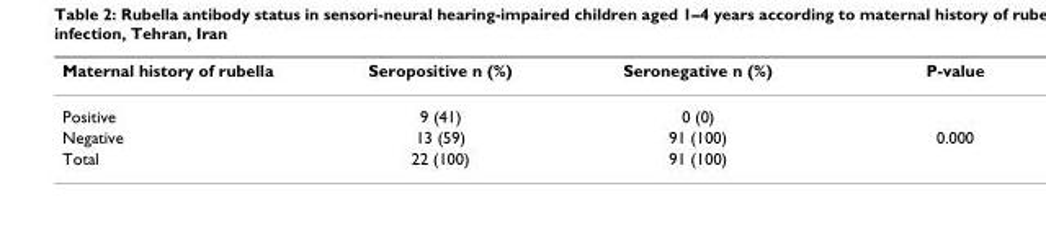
<table><thead><tr><td>Maternal history of rubella</td><td>Seropositive n (%)</td><td>Seronegative n (%)</td><td>P-value</td></tr></thead><tbody><tr><td>Positive</td><td>9 (41)</td><td>0 (0)</td><td></td></tr><tr><td>Negative</td><td>13 (59)</td><td>91 (100)</td><td>0.000</td></tr><tr><td>Total</td><td>22 (100)</td><td>91 (100)</td><td></td></tr></tbody></table>